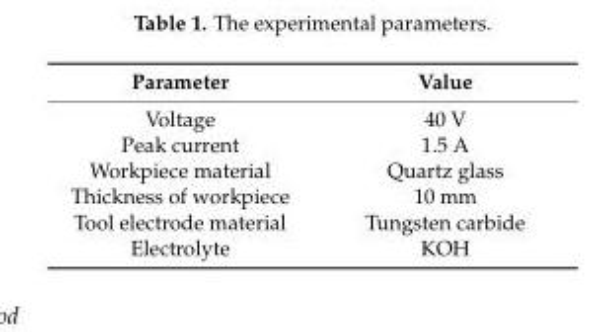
<table><thead><tr><td>Parameter</td><td>Value</td></tr></thead><tbody><tr><td>Voltage</td><td>40 V</td></tr><tr><td>Peak current</td><td>1.5 A</td></tr><tr><td>Workpiece material</td><td>Quartz glass</td></tr><tr><td>Thickness of workpiece</td><td>10 mm</td></tr><tr><td>Tool electrode material</td><td>Tungsten carbide</td></tr><tr><td>Electrolyte</td><td>KOH</td></tr></tbody></table>